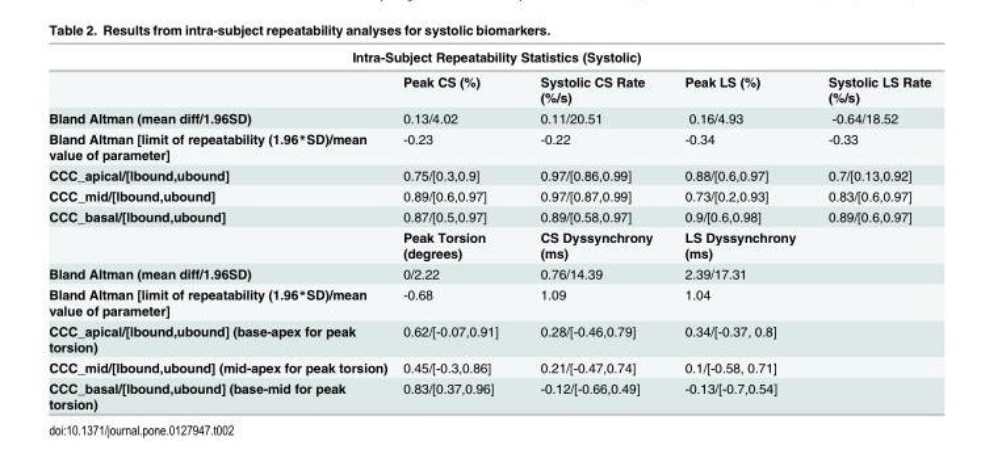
<table><thead><tr><td colspan="5">Intra-Subject Repeatability Statistics (Systolic)</td></tr><tr><td></td><td>Peak CS (%)</td><td>Systolic CS Rate (%/s)</td><td>Peak LS (%)</td><td>Systolic LS Rate (%/s)</td></tr></thead><tbody><tr><td>Bland Altman (mean diff/1.96SD)</td><td>0.13/4.02</td><td>0.11/20.51</td><td>0.16/4.93</td><td>-0.64/18.52</td></tr><tr><td>Bland Altman [limit of repeatability (1.96*SD)/mean value of parameter]</td><td>-0.23</td><td>-0.22</td><td>-0.34</td><td>-0.33</td></tr><tr><td>CCC_apical/[lbound,ubound]</td><td>0.75/[0.3,0.9]</td><td>0.97/[0.86,0.99]</td><td>0.88/[0.6,0.97]</td><td>0.7/[0.13,0.92]</td></tr><tr><td>CCC_mid/[lbound,ubound]</td><td>0.89/[0.6,0.97]</td><td>0.97/[0.87,0.99]</td><td>0.73/[0.2,0.93]</td><td>0.83/[0.6,0.97]</td></tr><tr><td rowspan="2">CCC_basal/[lbound,ubound]</td><td>0.87/[0.5,0.97]</td><td>0.89/[0.58,0.97]</td><td>0.9/[0.6,0.98]</td><td>0.89/[0.6,0.97]</td></tr><tr><td>Peak Torsion (degrees)</td><td>CS Dyssynchrony (ms)</td><td>LS Dyssynchrony (ms)</td><td></td></tr><tr><td>Bland Altman (mean diff/1.96SD)</td><td>0/2.22</td><td>0.76/14.39</td><td>2.39/17.31</td><td></td></tr><tr><td>Bland Altman [limit of repeatability (1.96*SD)/mean value of parameter]</td><td>-0.68</td><td>1.09</td><td>1.04</td><td></td></tr><tr><td>CCC_apical/[lbound,ubound] (base-apex for peak torsion)</td><td>0.62/[-0.07,0.91]</td><td>0.28/[-0.46,0.79]</td><td>0.34/[-0.37, 0.8]</td><td></td></tr><tr><td>CCC_mid/[lbound,ubound] (mid-apex for peak torsion)</td><td>0.45/[-0.3,0.86]</td><td>0.21/[-0.47,0.74]</td><td>0.1/[-0.58, 0.71]</td><td></td></tr><tr><td>CCC_basal/[lbound,ubound] (base-mid for peak torsion)</td><td>0.83/[0.37,0.96]</td><td>-0.12/[-0.66,0.49]</td><td>-0.13/[-0.7,0.54]</td><td></td></tr></tbody></table>